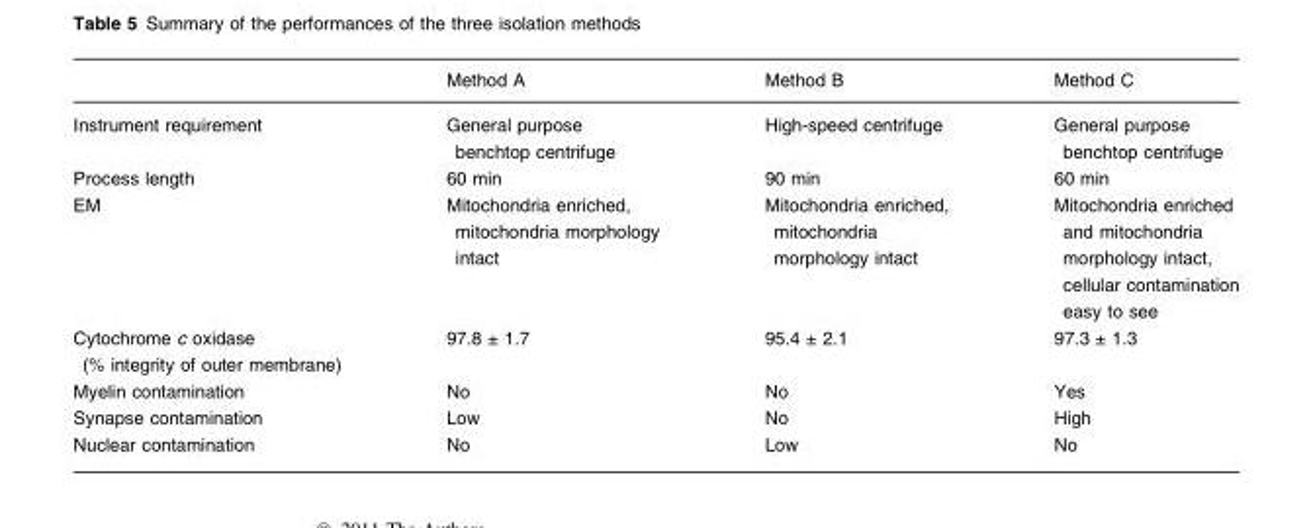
<table><thead><tr><td></td><td>Method A</td><td>Method B</td><td>Method C</td></tr></thead><tbody><tr><td>Instrument requirement</td><td>General purpose benchtop centrifuge</td><td>High-speed centrifuge</td><td>General purpose benchtop centrifuge</td></tr><tr><td>Process length</td><td>60 min</td><td>90 min</td><td>60 min</td></tr><tr><td>EM</td><td>Mitochondria enriched, mitochondria morphology intact</td><td>Mitochondria enriched, mitochondria morphology intact</td><td>Mitochondria enriched and mitochondria morphology intact, cellular contamination easy to see</td></tr><tr><td>Cytochrome c oxidase (% integrity of outer membrane)</td><td>97.8 ± 1.7</td><td>95.4 ± 2.1</td><td>97.3 ± 1.3</td></tr><tr><td>Myelin contamination</td><td>No</td><td>No</td><td>Yes</td></tr><tr><td>Synapse contamination</td><td>Low</td><td>No</td><td>High</td></tr><tr><td>Nuclear contamination</td><td>No</td><td>Low</td><td>No</td></tr></tbody></table>